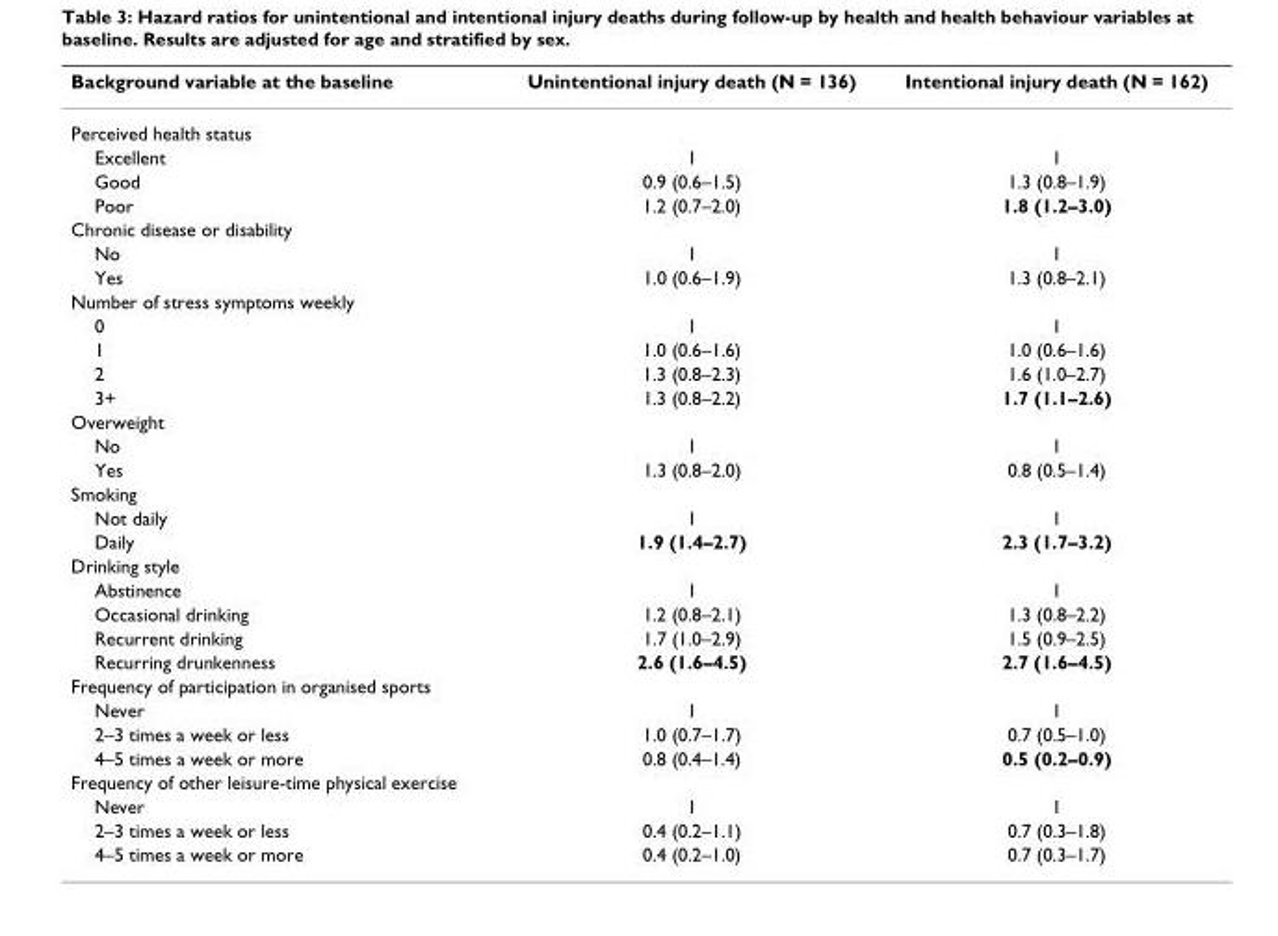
<table><thead><tr><td>Background variable at the baseline</td><td>Unintentional injury death (N = 136)</td><td>Intentional injury death (N = 162)</td></tr></thead><tbody><tr><td colspan="3">Perceived health status</td></tr><tr><td>Excellent</td><td>1</td><td>1</td></tr><tr><td>Good</td><td>0.9 (0.6–1.5)</td><td>1.3 (0.8–1.9)</td></tr><tr><td>Poor</td><td>1.2 (0.7–2.0)</td><td>1.8 (1.2–3.0)</td></tr><tr><td colspan="3">Chronic disease or disability</td></tr><tr><td>No</td><td>1</td><td>1</td></tr><tr><td>Yes</td><td>1.0 (0.6–1.9)</td><td>1.3 (0.8–2.1)</td></tr><tr><td colspan="3">Number of stress symptoms weekly</td></tr><tr><td>0</td><td>1</td><td>1</td></tr><tr><td>1</td><td>1.0 (0.6–1.6)</td><td>1.0 (0.6–1.6)</td></tr><tr><td>2</td><td>1.3 (0.8–2.3)</td><td>1.6 (1.0–2.7)</td></tr><tr><td>3+</td><td>1.3 (0.8–2.2)</td><td>1.7 (1.1–2.6)</td></tr><tr><td colspan="3">Overweight</td></tr><tr><td>No</td><td>1</td><td>1</td></tr><tr><td>Yes</td><td>1.3 (0.8–2.0)</td><td>0.8 (0.5–1.4)</td></tr><tr><td colspan="3">Smoking</td></tr><tr><td>Not daily</td><td>1</td><td>1</td></tr><tr><td>Daily</td><td>1.9 (1.4–2.7)</td><td>2.3 (1.7–3.2)</td></tr><tr><td colspan="3">Drinking style</td></tr><tr><td>Abstinence</td><td>1</td><td>1</td></tr><tr><td>Occasional drinking</td><td>1.2 (0.8–2.1)</td><td>1.3 (0.8–2.2)</td></tr><tr><td>Recurrent drinking</td><td>1.7 (1.0–2.9)</td><td>1.5 (0.9–2.5)</td></tr><tr><td>Recurring drunkenness</td><td>2.6 (1.6–4.5)</td><td>2.7 (1.6–4.5)</td></tr><tr><td colspan="3">Frequency of participation in organised sports</td></tr><tr><td>Never</td><td>1</td><td>1</td></tr><tr><td>2–3 times a week or less</td><td>1.0 (0.7–1.7)</td><td>0.7 (0.5–1.0)</td></tr><tr><td>4–5 times a week or more</td><td>0.8 (0.4–1.4)</td><td>0.5 (0.2–0.9)</td></tr><tr><td colspan="3">Frequency of other leisure-time physical exercise</td></tr><tr><td>Never</td><td>1</td><td>1</td></tr><tr><td>2–3 times a week or less</td><td>0.4 (0.2–1.1)</td><td>0.7 (0.3–1.8)</td></tr><tr><td>4–5 times a week or more</td><td>0.4 (0.2–1.0)</td><td>0.7 (0.3–1.7)</td></tr></tbody></table>